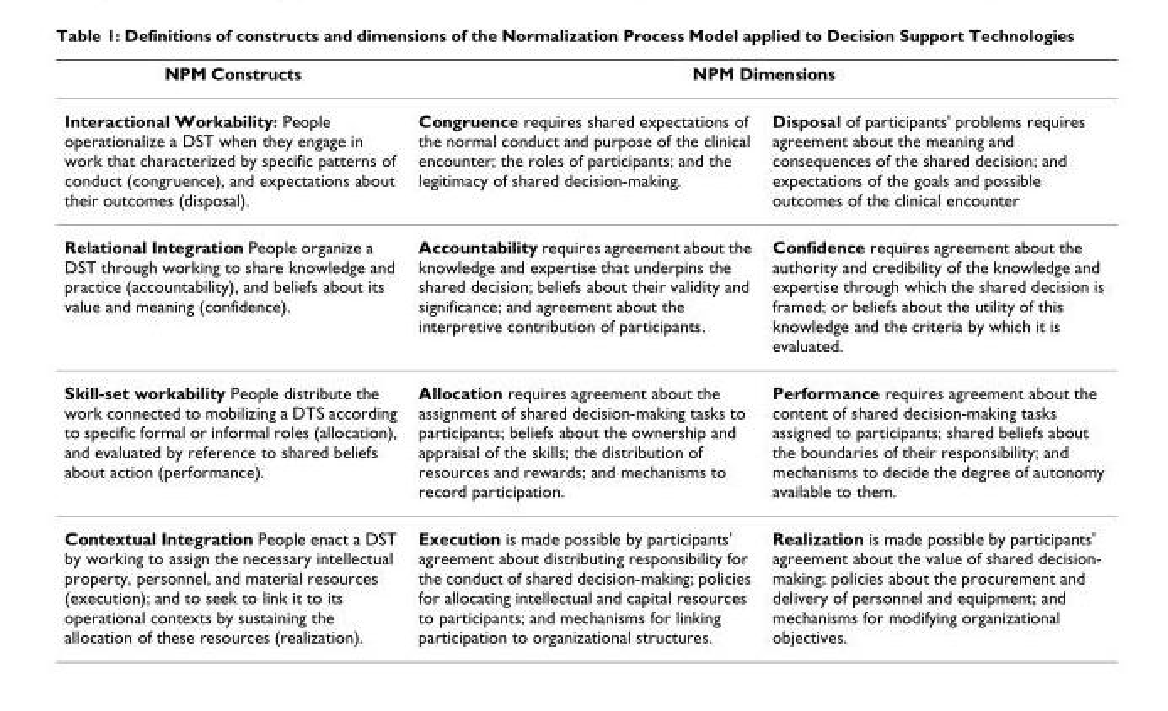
<table><thead><tr><td rowspan="2">NPM Constructs Interactional Workability: People operationalize a DST when they engage in work that characterized by specific patterns of conduct (congruence), and expectations about their outcomes (disposal).</td><td colspan="2">NPM Dimensions</td></tr><tr><td>Congruence requires shared expectations of the normal conduct and purpose of the clinical encounter; the roles of participants; and the legitimacy of shared decision-making.</td><td>Disposal of participants&#x27; problems requires agreement about the meaning and consequences of the shared decision; and expectations of the goals and possible outcomes of the clinical encounter</td></tr></thead><tbody><tr><td>Relational Integration People organize a DST through working to share knowledge and practice (accountability), and beliefs about its value and meaning (confidence).</td><td>Accountability requires agreement about the knowledge and expertise that underpins the shared decision; beliefs about their validity and significance; and agreement about the interpretive contribution of participants.</td><td>Confidence requires agreement about the authority and credibility of the knowledge and expertise through which the shared decision is framed; or beliefs about the utility of this knowledge and the criteria by which it is evaluated.</td></tr><tr><td>Skill-set workability People distribute the work connected to mobilizing a DTS according to specific formal or informal roles (allocation), and evaluated by reference to shared beliefs about action (performance).</td><td>Allocation requires agreement about the assignment of shared decision-making tasks to participants; beliefs about the ownership and appraisal of the skills; the distribution of resources and rewards; and mechanisms to record participation.</td><td>Performance requires agreement about the content of shared decision-making tasks assigned to participants; shared beliefs about the boundaries of their responsibility; and mechanisms to decide the degree of autonomy available to them.</td></tr><tr><td>Contextual Integration People enact a DST by working to assign the necessary intellectual property, personnel, and material resources (execution); and to seek to link it to its operational contexts by sustaining the allocation of these resources (realization).</td><td>Execution is made possible by participants&#x27; agreement about distributing responsibility for the conduct of shared decision-making; policies for allocating intellectual and capital resources to participants; and mechanisms for linking participation to organizational structures.</td><td>Realization is made possible by participants&#x27; agreement about the value of shared decision- making; policies about the procurement and delivery of personnel and equipment; and mechanisms for modifying organizational objectives.</td></tr></tbody></table>